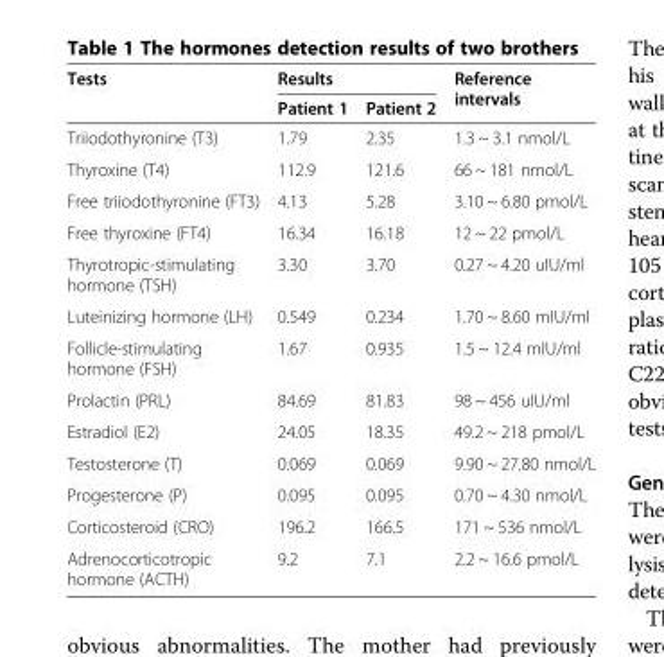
<table><thead><tr><td rowspan="2">Tests</td><td colspan="2">Results</td><td rowspan="2">Reference intervals</td></tr><tr><td>Patient 1</td><td>Patient 2</td></tr></thead><tbody><tr><td>Triiodothyronine (T3)</td><td>1.79</td><td>2.35</td><td>1.3 ~ 3.1 nmol/L</td></tr><tr><td>Thyroxine (T4)</td><td>112.9</td><td>121.6</td><td>66 ~ 181 nmol/L</td></tr><tr><td>Free triiodothyronine (FT3)</td><td>4.13</td><td>5.28</td><td>3.10 ~ 6.80 pmol/L</td></tr><tr><td>Free thyroxine (FT4)</td><td>16.34</td><td>16.18</td><td>12 ~ 22 pmol/L</td></tr><tr><td>Thyrotropic-stimulating hormone (TSH)</td><td>3.30</td><td>3.70</td><td>0.27 ~ 4.20 uIU/ml</td></tr><tr><td>Luteinizing hormone (LH)</td><td>0.549</td><td>0.234</td><td>1.70 ~ 8.60 mIU/ml</td></tr><tr><td>Follicle-stimulating hormone (FSH)</td><td>1.67</td><td>0.935</td><td>1.5 ~ 12.4 mIU/ml</td></tr><tr><td>Prolactin (PRL)</td><td>84.69</td><td>81.83</td><td>98 ~ 456 uIU/ml</td></tr><tr><td>Estradiol (E2)</td><td>24.05</td><td>18.35</td><td>49.2 ~ 218 pmol/L</td></tr><tr><td>Testosterone (T)</td><td>0.069</td><td>0.069</td><td>9.90 ~ 27.80 nmol/L</td></tr><tr><td>Progesterone (P)</td><td>0.095</td><td>0.095</td><td>0.70 ~ 4.30 nmol/L</td></tr><tr><td>Corticosteroid (CRO)</td><td>196.2</td><td>166.5</td><td>171 ~ 536 nmol/L</td></tr><tr><td>Adrenocorticotropic hormone (ACTH)</td><td>9.2</td><td>7.1</td><td>2.2 ~ 16.6 pmol/L</td></tr></tbody></table>